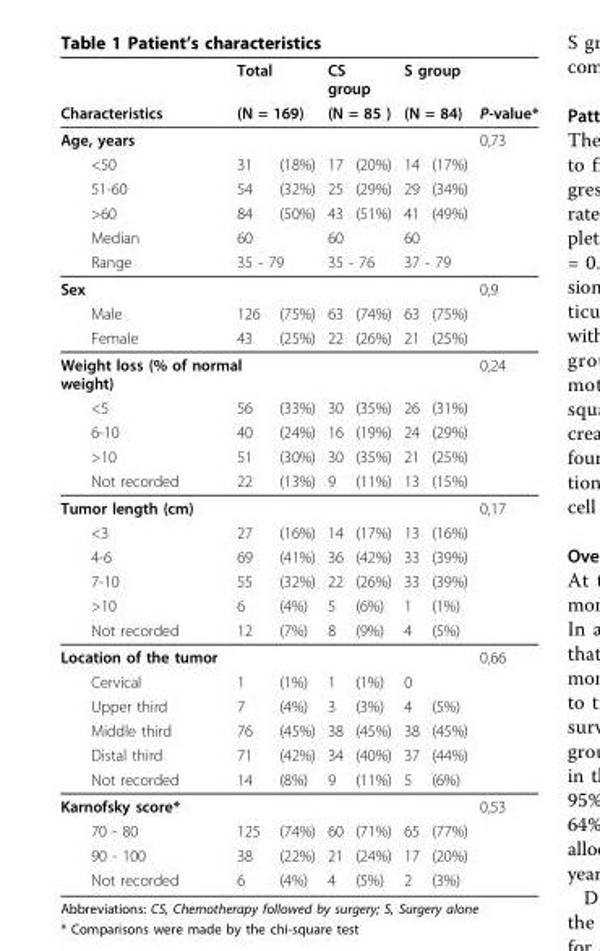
<table><thead><tr><td rowspan="3">Characteristics Age, years</td><td rowspan="2" colspan="2">Total (N = 169)</td><td rowspan="2" colspan="2">CS group (N = 85 )</td><td rowspan="2" colspan="2">S group (N = 84)</td><td rowspan="3">P-value* 0,73</td></tr><tr></tr><tr><td></td><td></td><td></td><td></td><td></td><td></td></tr></thead><tbody><tr><td>&lt;50</td><td>31</td><td>(18%)</td><td>17</td><td>(20%)</td><td>14</td><td>(17%)</td><td></td></tr><tr><td>51-60</td><td>54</td><td>(32%)</td><td>25</td><td>(29%)</td><td>29</td><td>(34%)</td><td></td></tr><tr><td>&gt;60</td><td>84</td><td>(50%)</td><td>43</td><td>(51%)</td><td>41</td><td>(49%)</td><td></td></tr><tr><td>Median</td><td colspan="2">60</td><td colspan="2">60</td><td colspan="2">60</td><td></td></tr><tr><td>Range</td><td colspan="2">35 - 79</td><td colspan="2">35 - 76</td><td colspan="2">37 - 79</td><td></td></tr><tr><td>Sex</td><td></td><td></td><td></td><td></td><td></td><td></td><td>0,9</td></tr><tr><td>Male</td><td>126</td><td>(75%)</td><td>63</td><td>(74%)</td><td>63</td><td>(75%)</td><td></td></tr><tr><td>Female</td><td>43</td><td>(25%)</td><td>22</td><td>(26%)</td><td>21</td><td>(25%)</td><td></td></tr><tr><td colspan="2">Weight loss (% of normal weight)</td><td></td><td></td><td></td><td></td><td></td><td>0,24</td></tr><tr><td>&lt;5</td><td>56</td><td>(33%)</td><td>30</td><td>(35%)</td><td>26</td><td>(31%)</td><td></td></tr><tr><td>6-10</td><td>40</td><td>(24%)</td><td>16</td><td>(19%)</td><td>24</td><td>(29%)</td><td></td></tr><tr><td>&gt;10</td><td>51</td><td>(30%)</td><td>30</td><td>(35%)</td><td>21</td><td>(25%)</td><td></td></tr><tr><td>Not recorded</td><td>22</td><td>(13%)</td><td>9</td><td>(11%)</td><td>13</td><td>(15%)</td><td></td></tr><tr><td>Tumor length (cm)</td><td></td><td></td><td></td><td></td><td></td><td></td><td>0,17</td></tr><tr><td>&lt;3</td><td>27</td><td>(16%)</td><td>14</td><td>(17%)</td><td>13</td><td>(16%)</td><td></td></tr><tr><td>4-6</td><td>69</td><td>(41%)</td><td>36</td><td>(42%)</td><td>33</td><td>(39%)</td><td></td></tr><tr><td>7-10</td><td>55</td><td>(32%)</td><td>22</td><td>(26%)</td><td>33</td><td>(39%)</td><td></td></tr><tr><td>&gt;10</td><td>6</td><td>(4%)</td><td>5</td><td>(6%)</td><td>1</td><td>(1%)</td><td></td></tr><tr><td>Not recorded</td><td>12</td><td>(7%)</td><td>8</td><td>(9%)</td><td>4</td><td>(5%)</td><td></td></tr><tr><td>Location of the tumor</td><td></td><td></td><td></td><td></td><td></td><td></td><td>0,66</td></tr><tr><td>Cervical</td><td>1</td><td>(1%)</td><td>1</td><td>(1%)</td><td>0</td><td></td><td></td></tr><tr><td>Upper third</td><td>7</td><td>(4%)</td><td>3</td><td>(3%)</td><td>4</td><td>(5%)</td><td></td></tr><tr><td>Middle third</td><td>76</td><td>(45%)</td><td>38</td><td>(45%)</td><td>38</td><td>(45%)</td><td></td></tr><tr><td>Distal third</td><td>71</td><td>(42%)</td><td>34</td><td>(40%)</td><td>37</td><td>(44%)</td><td></td></tr><tr><td>Not recorded</td><td>14</td><td>(8%)</td><td>9</td><td>(11%)</td><td>5</td><td>(6%)</td><td></td></tr><tr><td>Karnofsky score*</td><td></td><td></td><td></td><td></td><td></td><td></td><td>0,53</td></tr><tr><td>70 - 80</td><td>125</td><td>(74%)</td><td>60</td><td>(71%)</td><td>65</td><td>(77%)</td><td></td></tr><tr><td>90 - 100</td><td>38</td><td>(22%)</td><td>21</td><td>(24%)</td><td>17</td><td>(20%)</td><td></td></tr><tr><td>Not recorded</td><td>6</td><td>(4%)</td><td>4</td><td>(5%)</td><td>2</td><td>(3%)</td><td></td></tr></tbody></table>